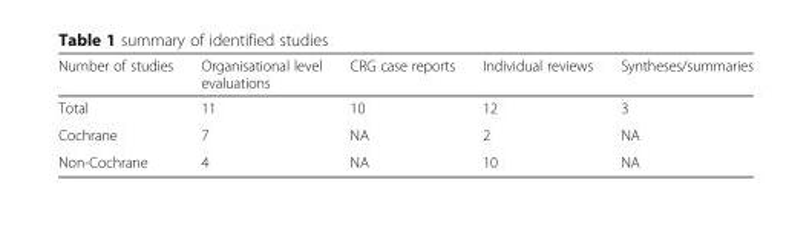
<table><thead><tr><td>Number of studies</td><td>Organisational level evaluations</td><td>CRG case reports</td><td>Individual reviews</td><td>Syntheses/summaries</td></tr></thead><tbody><tr><td>Total</td><td>11</td><td>10</td><td>12</td><td>3</td></tr><tr><td>Cochrane</td><td>7</td><td>NA</td><td>2</td><td>NA</td></tr><tr><td>Non-Cochrane</td><td>4</td><td>NA</td><td>10</td><td>NA</td></tr></tbody></table>